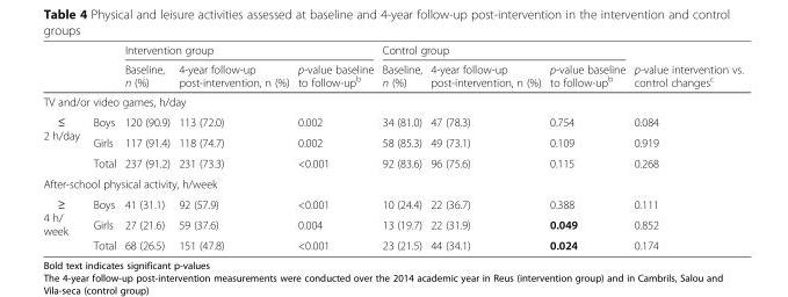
<table><thead><tr><td rowspan="2"></td><td rowspan="2"></td><td colspan="3">Intervention group</td><td colspan="3">Control group</td><td rowspan="2">p-value intervention vs. control changes<sup>c</sup></td></tr><tr><td>Baseline, n (%)</td><td>4-year follow-up post-intervention, n (%)</td><td>p-value baseline to follow-up<sup>b</sup></td><td>Baseline, n (%)</td><td>4-year follow-up post-intervention, n (%)</td><td>p-value baseline to follow-up<sup>b</sup></td></tr></thead><tbody><tr><td colspan="9">TV and/or video games, h/day</td></tr><tr><td rowspan="3">≤ 2 h/day</td><td>Boys</td><td>120 (90.9)</td><td>113 (72.0)</td><td>0.002</td><td>34 (81.0)</td><td>47 (78.3)</td><td>0.754</td><td>0.084</td></tr><tr><td>Girls</td><td>117 (91.4)</td><td>118 (74.7)</td><td>0.002</td><td>58 (85.3)</td><td>49 (73.1)</td><td>0.109</td><td>0.919</td></tr><tr><td>Total</td><td>237 (91.2)</td><td>231 (73.3)</td><td>&lt;0.001</td><td>92 (83.6)</td><td>96 (75.6)</td><td>0.115</td><td>0.268</td></tr><tr><td colspan="9">After-school physical activity, h/week</td></tr><tr><td rowspan="3">≥ 4 h/ week</td><td>Boys</td><td>41 (31.1)</td><td>92 (57.9)</td><td>&lt;0.001</td><td>10 (24.4)</td><td>22 (36.7)</td><td>0.388</td><td>0.111</td></tr><tr><td>Girls</td><td>27 (21.6)</td><td>59 (37.6)</td><td>0.004</td><td>13 (19.7)</td><td>22 (31.9)</td><td>0.049</td><td>0.852</td></tr><tr><td>Total</td><td>68 (26.5)</td><td>151 (47.8)</td><td>&lt;0.001</td><td>23 (21.5)</td><td>44 (34.1)</td><td>0.024</td><td>0.174</td></tr></tbody></table>